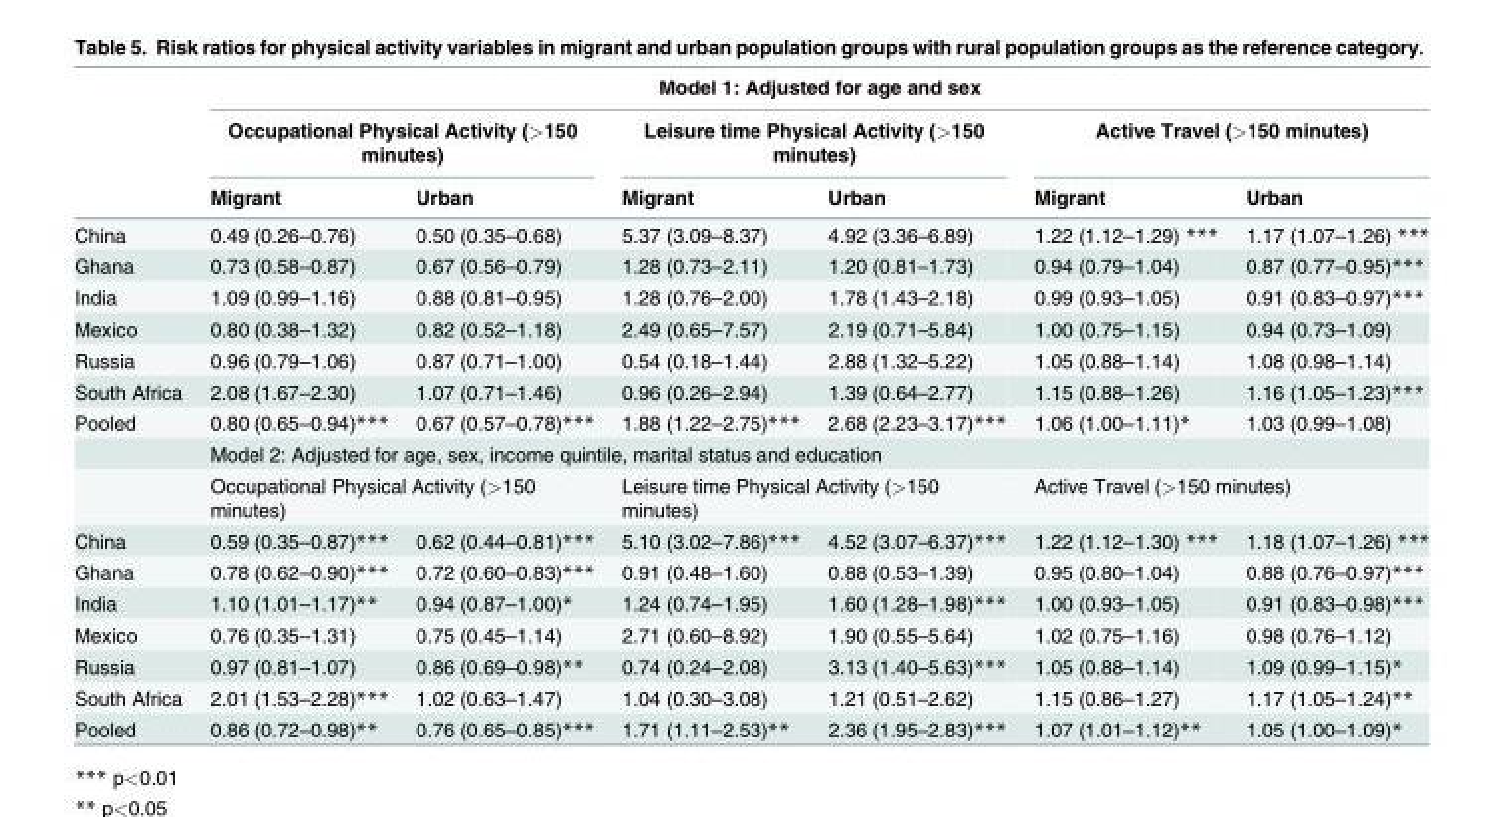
<table><thead><tr><td rowspan="3"></td><td colspan="6">Model 1: Adjusted for age and sex</td></tr><tr><td colspan="2">Occupational Physical Activity (&gt;150 minutes)</td><td colspan="2">Leisure time Physical Activity (&gt;150 minutes)</td><td colspan="2">Active Travel (&gt;150 minutes)</td></tr><tr><td>Migrant</td><td>Urban</td><td>Migrant</td><td>Urban</td><td>Migrant</td><td>Urban</td></tr></thead><tbody><tr><td>China</td><td>0.49 (0.26–0.76)</td><td>0.50 (0.35–0.68)</td><td>5.37 (3.09–8.37)</td><td>4.92 (3.36–6.89)</td><td>1.22 (1.12–1.29) ***</td><td>1.17 (1.07–1.26) ***</td></tr><tr><td>Ghana</td><td>0.73 (0.58–0.87)</td><td>0.67 (0.56–0.79)</td><td>1.28 (0.73–2.11)</td><td>1.20 (0.81–1.73)</td><td>0.94 (0.79–1.04)</td><td>0.87 (0.77–0.95)***</td></tr><tr><td>India</td><td>1.09 (0.99–1.16)</td><td>0.88 (0.81–0.95)</td><td>1.28 (0.76–2.00)</td><td>1.78 (1.43–2.18)</td><td>0.99 (0.93–1.05)</td><td>0.91 (0.83–0.97)***</td></tr><tr><td>Mexico</td><td>0.80 (0.38–1.32)</td><td>0.82 (0.52–1.18)</td><td>2.49 (0.65–7.57)</td><td>2.19 (0.71–5.84)</td><td>1.00 (0.75–1.15)</td><td>0.94 (0.73–1.09)</td></tr><tr><td>Russia</td><td>0.96 (0.79–1.06)</td><td>0.87 (0.71–1.00)</td><td>0.54 (0.18–1.44)</td><td>2.88 (1.32–5.22)</td><td>1.05 (0.88–1.14)</td><td>1.08 (0.98–1.14)</td></tr><tr><td>South Africa</td><td>2.08 (1.67–2.30)</td><td>1.07 (0.71–1.46)</td><td>0.96 (0.26–2.94)</td><td>1.39 (0.64–2.77)</td><td>1.15 (0.88–1.26)</td><td>1.16 (1.05–1.23)***</td></tr><tr><td rowspan="3">Pooled</td><td>0.80 (0.65–0.94)***</td><td>0.67 (0.57–0.78)***</td><td>1.88 (1.22–2.75)***</td><td>2.68 (2.23–3.17)***</td><td>1.06 (1.00–1.11)*</td><td>1.03 (0.99–1.08)</td></tr><tr><td colspan="6">Model 2: Adjusted for age, sex, income quintile, marital status and education</td></tr><tr><td colspan="2">Occupational Physical Activity (&gt;150 minutes)</td><td colspan="2">Leisure time Physical Activity (&gt;150 minutes)</td><td colspan="2">Active Travel (&gt;150 minutes)</td></tr><tr><td>China</td><td>0.59 (0.35–0.87)***</td><td>0.62 (0.44–0.81)***</td><td>5.10 (3.02–7.86)***</td><td>4.52 (3.07–6.37)***</td><td>1.22 (1.12–1.30) ***</td><td>1.18 (1.07–1.26) ***</td></tr><tr><td>Ghana</td><td>0.78 (0.62–0.90)***</td><td>0.72 (0.60–0.83)***</td><td>0.91 (0.48–1.60)</td><td>0.88 (0.53–1.39)</td><td>0.95 (0.80–1.04)</td><td>0.88 (0.76–0.97)***</td></tr><tr><td>India</td><td>1.10 (1.01–1.17)**</td><td>0.94 (0.87–1.00)*</td><td>1.24 (0.74–1.95)</td><td>1.60 (1.28–1.98)***</td><td>1.00 (0.93–1.05)</td><td>0.91 (0.83–0.98)***</td></tr><tr><td>Mexico</td><td>0.76 (0.35–1.31)</td><td>0.75 (0.45–1.14)</td><td>2.71 (0.60–8.92)</td><td>1.90 (0.55–5.64)</td><td>1.02 (0.75–1.16)</td><td>0.98 (0.76–1.12)</td></tr><tr><td>Russia</td><td>0.97 (0.81–1.07)</td><td>0.86 (0.69–0.98)**</td><td>0.74 (0.24–2.08)</td><td>3.13 (1.40–5.63)***</td><td>1.05 (0.88–1.14)</td><td>1.09 (0.99–1.15)*</td></tr><tr><td>South Africa</td><td>2.01 (1.53–2.28)***</td><td>1.02 (0.63–1.47)</td><td>1.04 (0.30–3.08)</td><td>1.21 (0.51–2.62)</td><td>1.15 (0.86–1.27)</td><td>1.17 (1.05–1.24)**</td></tr><tr><td>Pooled</td><td>0.86 (0.72–0.98)**</td><td>0.76 (0.65–0.85)***</td><td>1.71 (1.11–2.53)**</td><td>2.36 (1.95–2.83)***</td><td>1.07 (1.01–1.12)**</td><td>1.05 (1.00–1.09)*</td></tr></tbody></table>